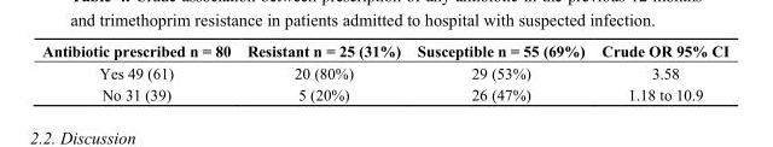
<table><thead><tr><td>Antibiotic prescribed n = 80</td><td>Resistant n = 25 (31%)</td><td>Susceptible n = 55 (69%)</td><td>Crude OR 95% CI</td></tr></thead><tbody><tr><td>Yes 49 (61)</td><td>20 (80%)</td><td>29 (53%)</td><td>3.58</td></tr><tr><td>No 31 (39)</td><td>5 (20%)</td><td>26 (47%)</td><td>1.18 to 10.9</td></tr></tbody></table>